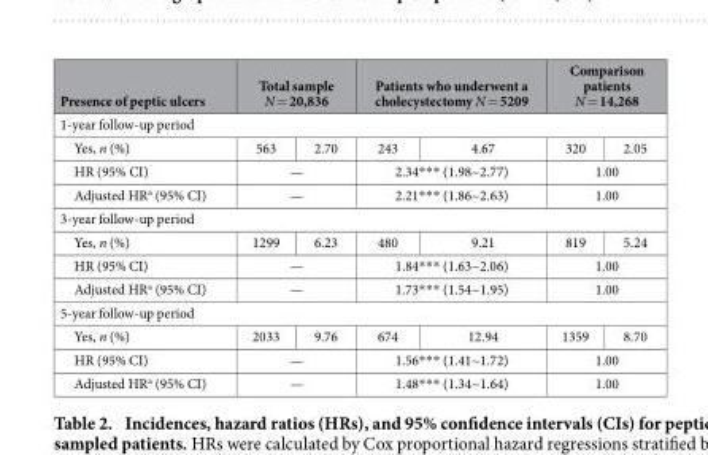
<table><thead><tr><td>Presence of peptic ulcers</td><td colspan="2">Total sample N = 20,836</td><td colspan="2">Patients who underwent a cholecystectomy N = 5209</td><td colspan="2">Comparison patients N = 14,268</td></tr><tr><td colspan="7">1-year follow-up period</td></tr><tr><td>Yes, n (%)</td><td>563</td><td>2.70</td><td>243</td><td>4.67</td><td>320</td><td>2.05</td></tr></thead><tbody><tr><td>HR (95% CI)</td><td colspan="2">—</td><td colspan="2">2.34* * * (1.98~2.77)</td><td colspan="2">1.00</td></tr><tr><td>Adjusted HR<sup>a</sup> (95% CI)</td><td colspan="2">—</td><td colspan="2">2.21* * * (1.86~2.63)</td><td colspan="2">1.00</td></tr><tr><td colspan="7">3-year follow-up period</td></tr><tr><td>Yes, n (%)</td><td>1299</td><td>6.23</td><td>480</td><td>9.21</td><td>819</td><td>5.24</td></tr><tr><td>HR (95% CI)</td><td colspan="2">—</td><td colspan="2">1.84* * * (1.63~2.06)</td><td colspan="2">1.00</td></tr><tr><td>Adjusted HR<sup>a</sup> (95% CI)</td><td colspan="2">—</td><td colspan="2">1.73* * * (1.54~1.95)</td><td colspan="2">1.00</td></tr><tr><td colspan="7">5-year follow-up period</td></tr><tr><td>Yes, n (%)</td><td>2033</td><td>9.76</td><td>674</td><td>12.94</td><td>1359</td><td>8.70</td></tr><tr><td>HR (95% CI)</td><td colspan="2">—</td><td colspan="2">1.56* * * (1.41~1.72)</td><td colspan="2">1.00</td></tr><tr><td>Adjusted HR<sup>a</sup> (95% CI)</td><td colspan="2">—</td><td colspan="2">1.48* * * (1.34~1.64)</td><td colspan="2">1.00</td></tr></tbody></table>